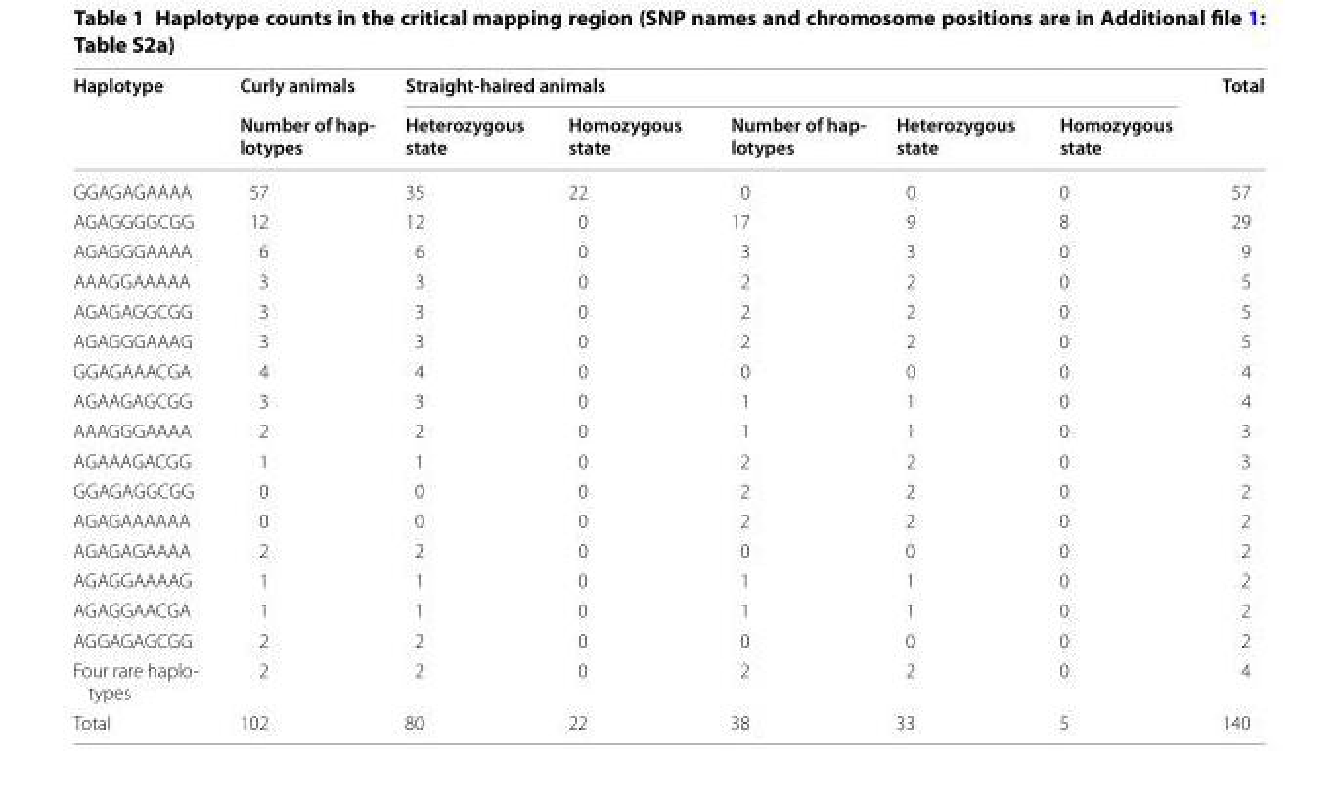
<table><thead><tr><td rowspan="2">Haplotype</td><td rowspan="2">Curly animals Number of hap‑ lotypes</td><td colspan="5">Straight‑haired animals</td><td rowspan="2">Total</td></tr><tr><td>Heterozygous state</td><td>Homozygous state</td><td>Number of hap‑ lotypes</td><td>Heterozygous state</td><td>Homozygous state</td></tr></thead><tbody><tr><td>GGAGAGAAAA</td><td>57</td><td>35</td><td>22</td><td>0</td><td>0</td><td>0</td><td>57</td></tr><tr><td>AGAGGGGCGG</td><td>12</td><td>12</td><td>0</td><td>17</td><td>9</td><td>8</td><td>29</td></tr><tr><td>AGAGGGAAAA</td><td>6</td><td>6</td><td>0</td><td>3</td><td>3</td><td>0</td><td>9</td></tr><tr><td>AAAGGAAAAA</td><td>3</td><td>3</td><td>0</td><td>2</td><td>2</td><td>0</td><td>5</td></tr><tr><td>AGAGAGGCGG</td><td>3</td><td>3</td><td>0</td><td>2</td><td>2</td><td>0</td><td>5</td></tr><tr><td>AGAGGGAAAG</td><td>3</td><td>3</td><td>0</td><td>2</td><td>2</td><td>0</td><td>5</td></tr><tr><td>GGAGAAACGA</td><td>4</td><td>4</td><td>0</td><td>0</td><td>0</td><td>0</td><td>4</td></tr><tr><td>AGAAGAGCGG</td><td>3</td><td>3</td><td>0</td><td>1</td><td>1</td><td>0</td><td>4</td></tr><tr><td>AAAGGGAAAA</td><td>2</td><td>2</td><td>0</td><td>1</td><td>1</td><td>0</td><td>3</td></tr><tr><td>AGAAAGACGG</td><td>1</td><td>1</td><td>0</td><td>2</td><td>2</td><td>0</td><td>3</td></tr><tr><td>GGAGAGGCGG</td><td>0</td><td>0</td><td>0</td><td>2</td><td>2</td><td>0</td><td>2</td></tr><tr><td>AGAGAAAAAA</td><td>0</td><td>0</td><td>0</td><td>2</td><td>2</td><td>0</td><td>2</td></tr><tr><td>AGAGAGAAAA</td><td>2</td><td>2</td><td>0</td><td>0</td><td>0</td><td>0</td><td>2</td></tr><tr><td>AGAGGAAAAG</td><td>1</td><td>1</td><td>0</td><td>1</td><td>1</td><td>0</td><td>2</td></tr><tr><td>AGAGGAACGA</td><td>1</td><td>1</td><td>0</td><td>1</td><td>1</td><td>0</td><td>2</td></tr><tr><td>AGGAGAGCGG</td><td>2</td><td>2</td><td>0</td><td>0</td><td>0</td><td>0</td><td>2</td></tr><tr><td>Four rare haplo- types</td><td>2</td><td>2</td><td>0</td><td>2</td><td>2</td><td>0</td><td>4</td></tr><tr><td>Total</td><td>102</td><td>80</td><td>22</td><td>38</td><td>33</td><td>5</td><td>140</td></tr></tbody></table>